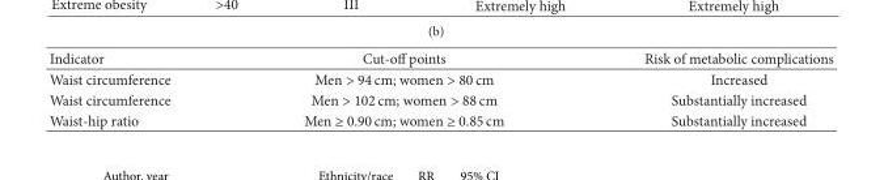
<table><thead><tr><td>Indicator</td><td>Cut-off points</td><td>Risk of metabolic complications</td></tr></thead><tbody><tr><td>Waist circumference</td><td>Men &gt; 94 cm; women &gt; 80 cm</td><td>Increased</td></tr><tr><td>Waist circumference</td><td>Men &gt; 102 cm; women &gt; 88 cm</td><td>Substantially increased</td></tr><tr><td>Waist-hip ratio</td><td>Men ≥ 0.90 cm; women ≥ 0.85 cm</td><td>Substantially increased</td></tr></tbody></table>